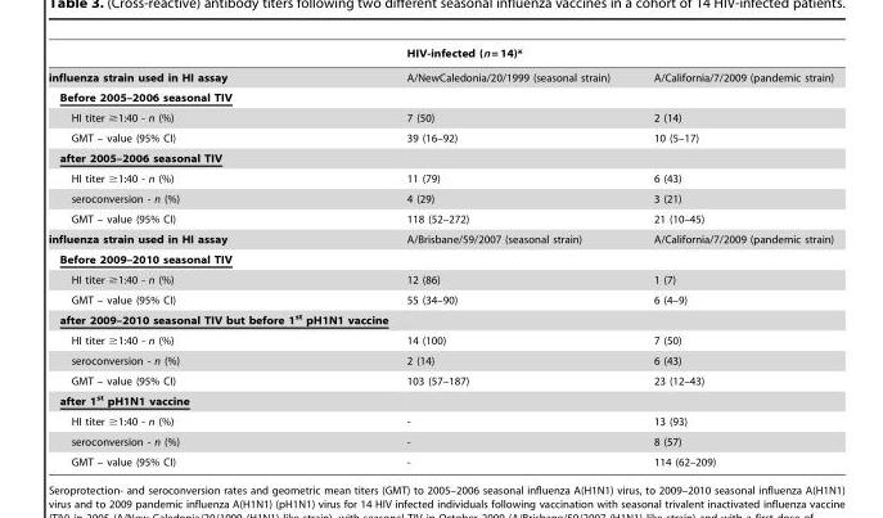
<table><thead><tr><td rowspan="2">influenza strain used in HI assay</td><td colspan="2">HIV-infected (n = 14)*</td></tr><tr><td>A/NewCaledonia/20/1999 (seasonal strain)</td><td>A/California/7/2009 (pandemic strain)</td></tr></thead><tbody><tr><td colspan="3">Before 2005–2006 seasonal TIV</td></tr><tr><td>HI titer ≥1:40 - n (%)</td><td>7 (50)</td><td>2 (14)</td></tr><tr><td>GMT – value (95% CI)</td><td>39 (16–92)</td><td>10 (5–17)</td></tr><tr><td colspan="3">after 2005–2006 seasonal TIV</td></tr><tr><td>HI titer ≥1:40 - n (%)</td><td>11 (79)</td><td>6 (43)</td></tr><tr><td>seroconversion - n (%)</td><td>4 (29)</td><td>3 (21)</td></tr><tr><td>GMT – value (95% CI)</td><td>118 (52–272)</td><td>21 (10–45)</td></tr><tr><td>influenza strain used in HI assay</td><td>A/Brisbane/59/2007 (seasonal strain)</td><td>A/California/7/2009 (pandemic strain)</td></tr><tr><td colspan="3">Before 2009–2010 seasonal TIV</td></tr><tr><td>HI titer ≥1:40 - n (%)</td><td>12 (86)</td><td>1 (7)</td></tr><tr><td>GMT – value (95% CI)</td><td>55 (34–90)</td><td>6 (4–9)</td></tr><tr><td colspan="3">after 2009–2010 seasonal TIV but before 1<sup>st</sup> pH1N1 vaccine</td></tr><tr><td>HI titer ≥1:40 - n (%)</td><td>14 (100)</td><td>7 (50)</td></tr><tr><td>seroconversion - n (%)</td><td>2 (14)</td><td>6 (43)</td></tr><tr><td>GMT – value (95% CI)</td><td>103 (57–187)</td><td>23 (12–43)</td></tr><tr><td colspan="3">after 1<sup>st</sup> pH1N1 vaccine</td></tr><tr><td>HI titer ≥1:40 - n (%)</td><td>-</td><td>13 (93)</td></tr><tr><td>seroconversion - n (%)</td><td>-</td><td>8 (57)</td></tr><tr><td>GMT – value (95% CI)</td><td>-</td><td>114 (62–209)</td></tr></tbody></table>